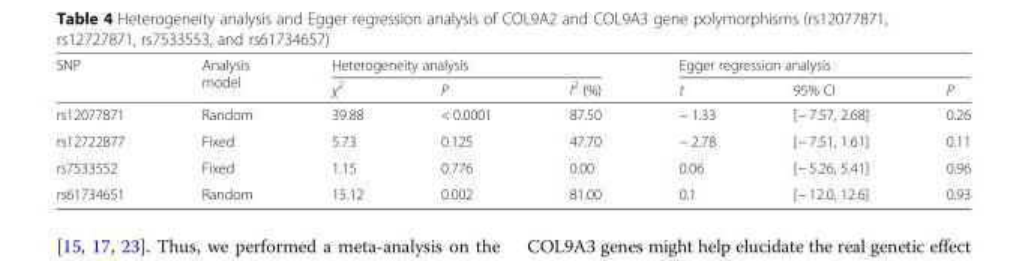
<table><thead><tr><td rowspan="2">SNP</td><td rowspan="2">Analysis model</td><td colspan="3">Heterogeneity analysis</td><td colspan="3">Egger regression analysis</td></tr><tr><td>χ<sup>2</sup></td><td>P</td><td>I<sup>2</sup> (%)</td><td>t</td><td>95% CI</td><td>P</td></tr></thead><tbody><tr><td>rs12077871</td><td>Random</td><td>39.88</td><td>&lt; 0.0001</td><td>87.50</td><td>− 1.33</td><td>[− 7.57, 2.68]</td><td>0.26</td></tr><tr><td>rs12722877</td><td>Fixed</td><td>5.73</td><td>0.125</td><td>47.70</td><td>− 2.78</td><td>[− 7.51, 1.61]</td><td>0.11</td></tr><tr><td>rs7533552</td><td>Fixed</td><td>1.15</td><td>0.776</td><td>0.00</td><td>0.06</td><td>[− 5.26, 5.41]</td><td>0.96</td></tr><tr><td>rs61734651</td><td>Random</td><td>15.12</td><td>0.002</td><td>81.00</td><td>0.1</td><td>[− 12.0, 12.6]</td><td>0.93</td></tr></tbody></table>